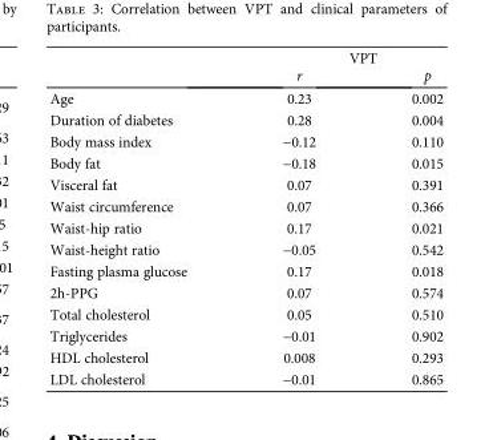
<table><thead><tr><td rowspan="2"></td><td colspan="2">VPT</td></tr><tr><td>r</td><td>p</td></tr></thead><tbody><tr><td>Age</td><td>0.23</td><td>0.002</td></tr><tr><td>Duration of diabetes</td><td>0.28</td><td>0.004</td></tr><tr><td>Body mass index</td><td>−0.12</td><td>0.110</td></tr><tr><td>Body fat</td><td>−0.18</td><td>0.015</td></tr><tr><td>Visceral fat</td><td>0.07</td><td>0.391</td></tr><tr><td>Waist circumference</td><td>0.07</td><td>0.366</td></tr><tr><td>Waist-hip ratio</td><td>0.17</td><td>0.021</td></tr><tr><td>Waist-height ratio</td><td>−0.05</td><td>0.542</td></tr><tr><td>Fasting plasma glucose</td><td>0.17</td><td>0.018</td></tr><tr><td>2h-PPG</td><td>0.07</td><td>0.574</td></tr><tr><td>Total cholesterol</td><td>0.05</td><td>0.510</td></tr><tr><td>Triglycerides</td><td>−0.01</td><td>0.902</td></tr><tr><td>HDL cholesterol</td><td>0.008</td><td>0.293</td></tr><tr><td>LDL cholesterol</td><td>−0.01</td><td>0.865</td></tr></tbody></table>